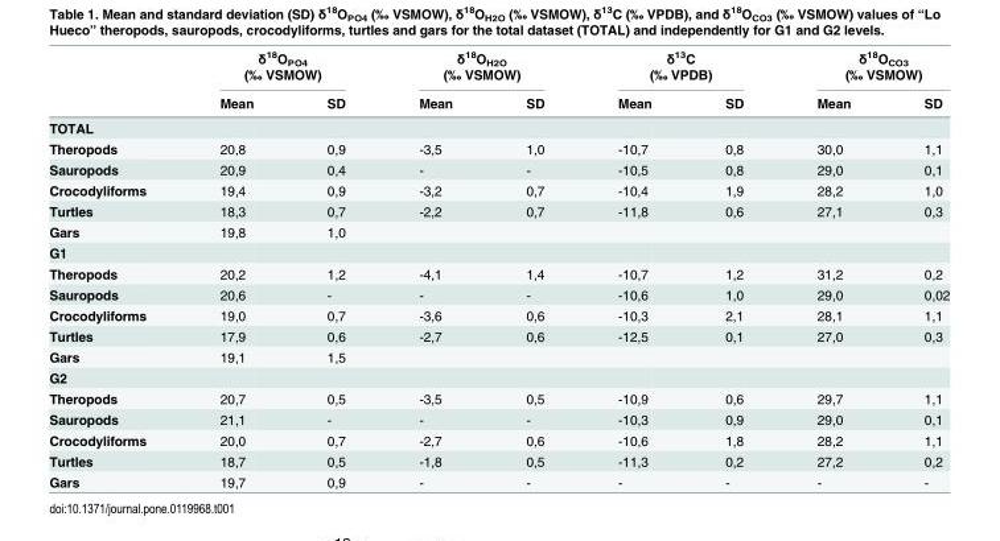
<table><thead><tr><td rowspan="2"></td><td colspan="2">δ<sup>18</sup>O<sub>PO4</sub> (‰ VSMOW)</td><td colspan="2">δ<sup>18</sup>O<sub>H2O</sub> (‰ VSMOW)</td><td colspan="2">δ<sup>13</sup>C (‰ VPDB)</td><td colspan="2">δ<sup>18</sup>O<sub>CO3</sub> (‰ VSMOW)</td></tr><tr><td>Mean</td><td>SD</td><td>Mean</td><td>SD</td><td>Mean</td><td>SD</td><td>Mean</td><td>SD</td></tr></thead><tbody><tr><td colspan="9">TOTAL</td></tr><tr><td>Theropods</td><td>20,8</td><td>0,9</td><td>-3,5</td><td>1,0</td><td>-10,7</td><td>0,8</td><td>30,0</td><td>1,1</td></tr><tr><td>Sauropods</td><td>20,9</td><td>0,4</td><td>-</td><td>-</td><td>-10,5</td><td>0,8</td><td>29,0</td><td>0,1</td></tr><tr><td>Crocodyliforms</td><td>19,4</td><td>0,9</td><td>-3,2</td><td>0,7</td><td>-10,4</td><td>1,9</td><td>28,2</td><td>1,0</td></tr><tr><td>Turtles</td><td>18,3</td><td>0,7</td><td>-2,2</td><td>0,7</td><td>-11,8</td><td>0,6</td><td>27,1</td><td>0,3</td></tr><tr><td>Gars</td><td>19,8</td><td>1,0</td><td></td><td></td><td></td><td></td><td></td><td></td></tr><tr><td colspan="9">G1</td></tr><tr><td>Theropods</td><td>20,2</td><td>1,2</td><td>-4,1</td><td>1,4</td><td>-10,7</td><td>1,2</td><td>31,2</td><td>0,2</td></tr><tr><td>Sauropods</td><td>20,6</td><td>-</td><td>-</td><td>-</td><td>-10,6</td><td>1,0</td><td>29,0</td><td>0,02</td></tr><tr><td>Crocodyliforms</td><td>19,0</td><td>0,7</td><td>-3,6</td><td>0,6</td><td>-10,3</td><td>2,1</td><td>28,1</td><td>1,1</td></tr><tr><td>Turtles</td><td>17,9</td><td>0,6</td><td>-2,7</td><td>0,6</td><td>-12,5</td><td>0,1</td><td>27,0</td><td>0,3</td></tr><tr><td>Gars</td><td>19,1</td><td>1,5</td><td></td><td></td><td></td><td></td><td></td><td></td></tr><tr><td colspan="9">G2</td></tr><tr><td>Theropods</td><td>20,7</td><td>0,5</td><td>-3,5</td><td>0,5</td><td>-10,9</td><td>0,6</td><td>29,7</td><td>1,1</td></tr><tr><td>Sauropods</td><td>21,1</td><td>-</td><td>-</td><td>-</td><td>-10,3</td><td>0,9</td><td>29,0</td><td>0,1</td></tr><tr><td>Crocodyliforms</td><td>20,0</td><td>0,7</td><td>-2,7</td><td>0,6</td><td>-10,6</td><td>1,8</td><td>28,2</td><td>1,1</td></tr><tr><td>Turtles</td><td>18,7</td><td>0,5</td><td>-1,8</td><td>0,5</td><td>-11,3</td><td>0,2</td><td>27,2</td><td>0,2</td></tr><tr><td>Gars</td><td>19,7</td><td>0,9</td><td>-</td><td>-</td><td>-</td><td>-</td><td>-</td><td>-</td></tr></tbody></table>